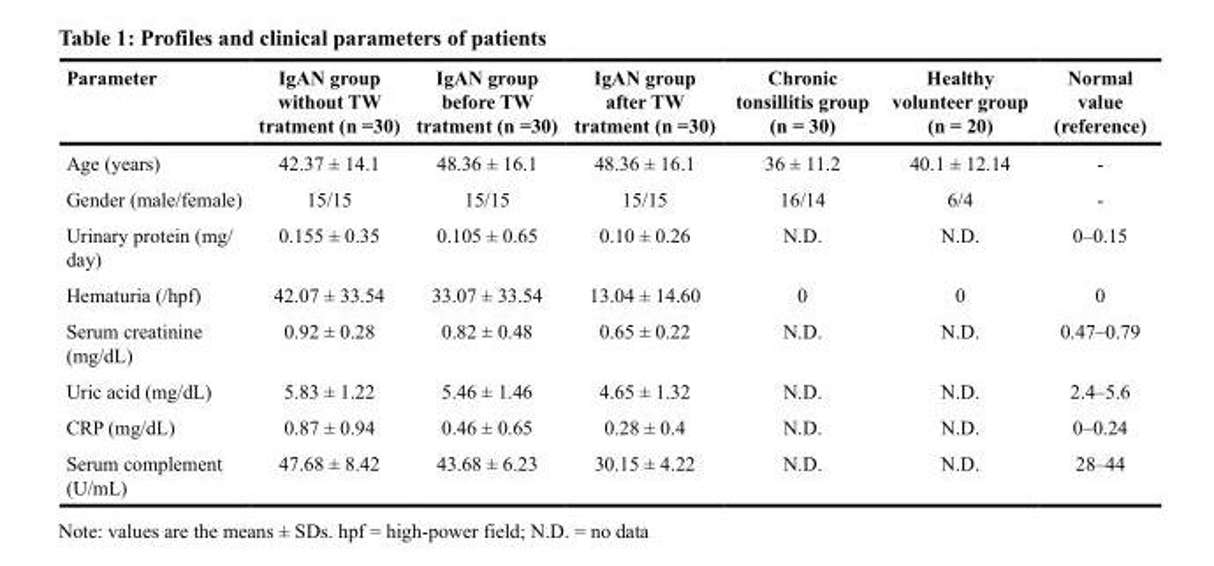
<table><thead><tr><td>Parameter</td><td>IgAN group without TW tratment (n =30)</td><td>IgAN group before TW tratment (n =30)</td><td>IgAN group after TW tratment (n =30)</td><td>Chronic tonsillitis group (n = 30)</td><td>Healthy volunteer group (n = 20)</td><td>Normal value (reference)</td></tr></thead><tbody><tr><td>Age (years)</td><td>42.37 ± 14.1</td><td>48.36 ± 16.1</td><td>48.36 ± 16.1</td><td>36 ± 11.2</td><td>40.1 ± 12.14</td><td>-</td></tr><tr><td>Gender (male/female)</td><td>15/15</td><td>15/15</td><td>15/15</td><td>16/14</td><td>6/4</td><td>-</td></tr><tr><td>Urinary protein (mg/ day)</td><td>0.155 ± 0.35</td><td>0.105 ± 0.65</td><td>0.10 ± 0.26</td><td>N.D.</td><td>N.D.</td><td>0–0.15</td></tr><tr><td>Hematuria (/hpf)</td><td>42.07 ± 33.54</td><td>33.07 ± 33.54</td><td>13.04 ± 14.60</td><td>0</td><td>0</td><td>0</td></tr><tr><td>Serum creatinine (mg/dL)</td><td>0.92 ± 0.28</td><td>0.82 ± 0.48</td><td>0.65 ± 0.22</td><td>N.D.</td><td>N.D.</td><td>0.47–0.79</td></tr><tr><td>Uric acid (mg/dL)</td><td>5.83 ± 1.22</td><td>5.46 ± 1.46</td><td>4.65 ± 1.32</td><td>N.D.</td><td>N.D.</td><td>2.4–5.6</td></tr><tr><td>CRP (mg/dL)</td><td>0.87 ± 0.94</td><td>0.46 ± 0.65</td><td>0.28 ± 0.4</td><td>N.D.</td><td>N.D.</td><td>0–0.24</td></tr><tr><td>Serum complement (U/mL)</td><td>47.68 ± 8.42</td><td>43.68 ± 6.23</td><td>30.15 ± 4.22</td><td>N.D.</td><td>N.D.</td><td>28–44</td></tr></tbody></table>